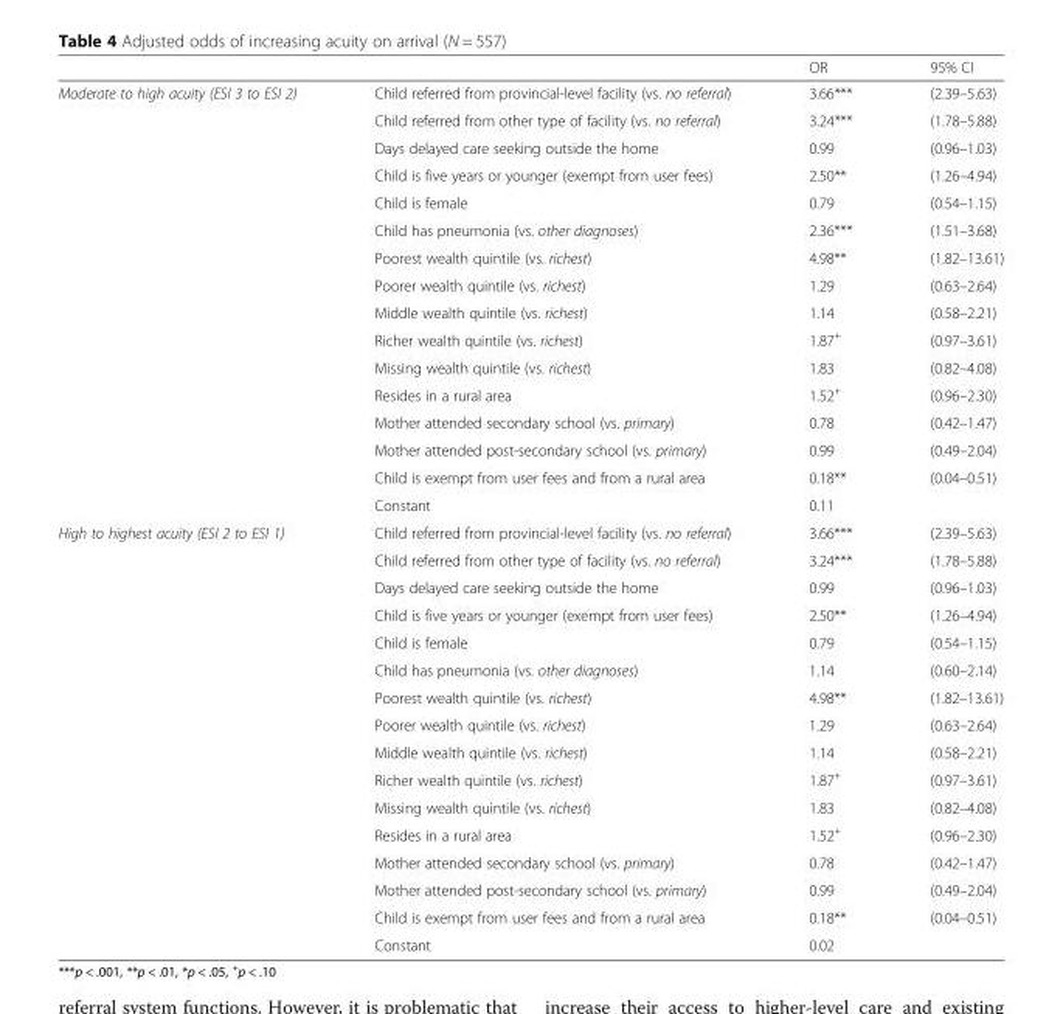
<table><thead><tr><td></td><td></td><td>OR</td><td>95% CI</td></tr></thead><tbody><tr><td rowspan="16">Moderate to high acuity (ESI 3 to ESI 2)</td><td>Child referred from provincial-level facility (vs. no referral)</td><td>3.66***</td><td>(2.39–5.63)</td></tr><tr><td>Child referred from other type of facility (vs. no referral)</td><td>3.24***</td><td>(1.78–5.88)</td></tr><tr><td>Days delayed care seeking outside the home</td><td>0.99</td><td>(0.96–1.03)</td></tr><tr><td>Child is five years or younger (exempt from user fees)</td><td>2.50**</td><td>(1.26–4.94)</td></tr><tr><td>Child is female</td><td>0.79</td><td>(0.54–1.15)</td></tr><tr><td>Child has pneumonia (vs. other diagnoses)</td><td>2.36***</td><td>(1.51–3.68)</td></tr><tr><td>Poorest wealth quintile (vs. richest)</td><td>4.98**</td><td>(1.82–13.61)</td></tr><tr><td>Poorer wealth quintile (vs. richest)</td><td>1.29</td><td>(0.63–2.64)</td></tr><tr><td>Middle wealth quintile (vs. richest)</td><td>1.14</td><td>(0.58–2.21)</td></tr><tr><td>Richer wealth quintile (vs. richest)</td><td>1.87<sup>+</sup></td><td>(0.97–3.61)</td></tr><tr><td>Missing wealth quintile (vs. richest)</td><td>1.83</td><td>(0.82–4.08)</td></tr><tr><td>Resides in a rural area</td><td>1.52<sup>+</sup></td><td>(0.96–2.30)</td></tr><tr><td>Mother attended secondary school (vs. primary)</td><td>0.78</td><td>(0.42–1.47)</td></tr><tr><td>Mother attended post-secondary school (vs. primary)</td><td>0.99</td><td>(0.49–2.04)</td></tr><tr><td>Child is exempt from user fees and from a rural area</td><td>0.18**</td><td>(0.04–0.51)</td></tr><tr><td>Constant</td><td>0.11</td><td></td></tr><tr><td rowspan="16">High to highest acuity (ESI 2 to ESI 1)</td><td>Child referred from provincial-level facility (vs. no referral)</td><td>3.66***</td><td>(2.39–5.63)</td></tr><tr><td>Child referred from other type of facility (vs. no referral)</td><td>3.24***</td><td>(1.78–5.88)</td></tr><tr><td>Days delayed care seeking outside the home</td><td>0.99</td><td>(0.96–1.03)</td></tr><tr><td>Child is five years or younger (exempt from user fees)</td><td>2.50**</td><td>(1.26–4.94)</td></tr><tr><td>Child is female</td><td>0.79</td><td>(0.54–1.15)</td></tr><tr><td>Child has pneumonia (vs. other diagnoses)</td><td>1.14</td><td>(0.60–2.14)</td></tr><tr><td>Poorest wealth quintile (vs. richest)</td><td>4.98**</td><td>(1.82–13.61)</td></tr><tr><td>Poorer wealth quintile (vs. richest)</td><td>1.29</td><td>(0.63–2.64)</td></tr><tr><td>Middle wealth quintile (vs. richest)</td><td>1.14</td><td>(0.58–2.21)</td></tr><tr><td>Richer wealth quintile (vs. richest)</td><td>1.87<sup>+</sup></td><td>(0.97–3.61)</td></tr><tr><td>Missing wealth quintile (vs. richest)</td><td>1.83</td><td>(0.82–4.08)</td></tr><tr><td>Resides in a rural area</td><td>1.52<sup>+</sup></td><td>(0.96–2.30)</td></tr><tr><td>Mother attended secondary school (vs. primary)</td><td>0.78</td><td>(0.42–1.47)</td></tr><tr><td>Mother attended post-secondary school (vs. primary)</td><td>0.99</td><td>(0.49–2.04)</td></tr><tr><td>Child is exempt from user fees and from a rural area</td><td>0.18**</td><td>(0.04–0.51)</td></tr><tr><td>Constant</td><td>0.02</td><td></td></tr></tbody></table>